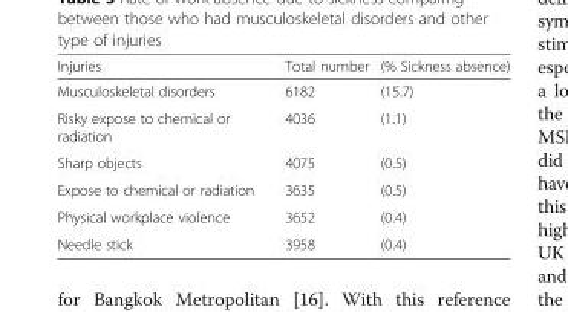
<table><thead><tr><td>Injuries</td><td>Total number</td><td>(% Sickness absence)</td></tr></thead><tbody><tr><td>Musculoskeletal disorders</td><td>6182</td><td>(15.7)</td></tr><tr><td>Risky expose to chemical or radiation</td><td>4036</td><td>(1.1)</td></tr><tr><td>Sharp objects</td><td>4075</td><td>(0.5)</td></tr><tr><td>Expose to chemical or radiation</td><td>3635</td><td>(0.5)</td></tr><tr><td>Physical workplace violence</td><td>3652</td><td>(0.4)</td></tr><tr><td>Needle stick</td><td>3958</td><td>(0.4)</td></tr></tbody></table>